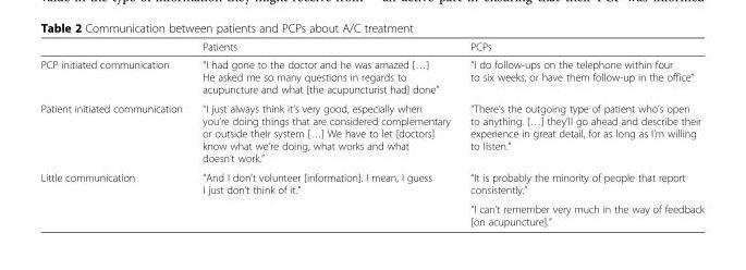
<table><thead><tr><td></td><td>Patients</td><td>PCPs</td></tr></thead><tbody><tr><td>PCP initiated communication</td><td>“I had gone to the doctor and he was amazed […] He asked me so many questions in regards to acupuncture and what [the acupuncturist had] done”</td><td>“I do follow-ups on the telephone within four to six weeks, or have them follow-up in the office”</td></tr><tr><td>Patient initiated communication</td><td>“I just always think it’s very good, especially when you’re doing things that are considered complementary or outside their system […] We have to let [doctors] know what we’re doing, what works and what doesn’t work.”</td><td>“There’s the outgoing type of patient who’s open to anything. […] they’ll go ahead and describe their experience in great detail, for as long as I’m willing to listen.”</td></tr><tr><td rowspan="2">Little communication</td><td rowspan="2">“And I don’t volunteer [information]. I mean, I guess I just don’t think of it.”</td><td>“It is probably the minority of people that report consistently.”</td></tr><tr><td>“I can’t remember very much in the way of feedback [on acupuncture].”</td></tr></tbody></table>